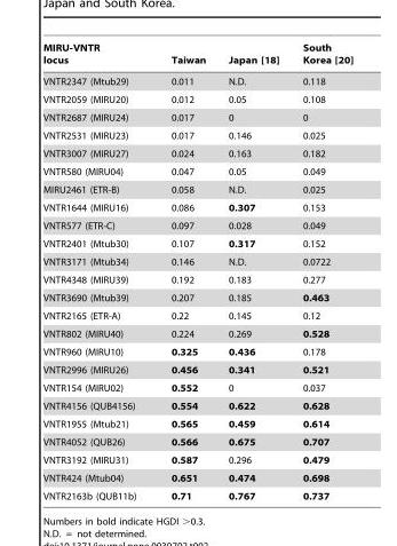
<table><thead><tr><td>MIRU-VNTR locus</td><td>Taiwan</td><td>Japan [18]</td><td>South Korea [20]</td></tr></thead><tbody><tr><td>VNTR2347 (Mtub29)</td><td>0.011</td><td>N.D.</td><td>0.118</td></tr><tr><td>VNTR2059 (MIRU20)</td><td>0.012</td><td>0.05</td><td>0.108</td></tr><tr><td>VNTR2687 (MIRU24)</td><td>0.017</td><td>0</td><td>0</td></tr><tr><td>VNTR2531 (MIRU23)</td><td>0.017</td><td>0.146</td><td>0.025</td></tr><tr><td>VNTR3007 (MIRU27)</td><td>0.024</td><td>0.163</td><td>0.182</td></tr><tr><td>VNTR580 (MIRU04)</td><td>0.047</td><td>0.05</td><td>0.049</td></tr><tr><td>MIRU2461 (ETR-B)</td><td>0.058</td><td>N.D.</td><td>0.025</td></tr><tr><td>VNTR1644 (MIRU16)</td><td>0.086</td><td>0.307</td><td>0.153</td></tr><tr><td>VNTR577 (ETR-C)</td><td>0.097</td><td>0.028</td><td>0.049</td></tr><tr><td>VNTR2401 (Mtub30)</td><td>0.107</td><td>0.317</td><td>0.152</td></tr><tr><td>VNTR3171 (Mtub34)</td><td>0.146</td><td>N.D.</td><td>0.0722</td></tr><tr><td>VNTR4348 (MIRU39)</td><td>0.192</td><td>0.183</td><td>0.277</td></tr><tr><td>VNTR3690 (Mtub39)</td><td>0.207</td><td>0.185</td><td>0.463</td></tr><tr><td>VNTR2165 (ETR-A)</td><td>0.22</td><td>0.145</td><td>0.12</td></tr><tr><td>VNTR802 (MIRU40)</td><td>0.224</td><td>0.269</td><td>0.528</td></tr><tr><td>VNTR960 (MIRU10)</td><td>0.325</td><td>0.436</td><td>0.178</td></tr><tr><td>VNTR2996 (MIRU26)</td><td>0.456</td><td>0.341</td><td>0.521</td></tr><tr><td>VNTR154 (MIRU02)</td><td>0.552</td><td>0</td><td>0.037</td></tr><tr><td>VNTR4156 (QUB4156)</td><td>0.554</td><td>0.622</td><td>0.628</td></tr><tr><td>VNTR1955 (Mtub21)</td><td>0.565</td><td>0.459</td><td>0.614</td></tr><tr><td>VNTR4052 (QUB26)</td><td>0.566</td><td>0.675</td><td>0.707</td></tr><tr><td>VNTR3192 (MIRU31)</td><td>0.587</td><td>0.296</td><td>0.479</td></tr><tr><td>VNTR424 (Mtub04)</td><td>0.651</td><td>0.474</td><td>0.698</td></tr><tr><td>VNTR2163b (QUB11b)</td><td>0.71</td><td>0.767</td><td>0.737</td></tr></tbody></table>